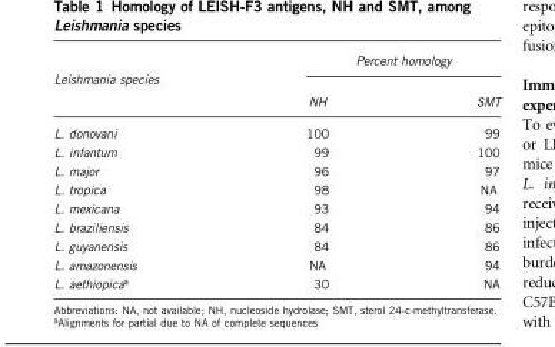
<table><thead><tr><td rowspan="2">Leishmania species</td><td colspan="2">Percent homology</td></tr><tr><td>NH</td><td>SMT</td></tr></thead><tbody><tr><td>L. donovani</td><td>100</td><td>99</td></tr><tr><td>L. infantum</td><td>99</td><td>100</td></tr><tr><td>L. major</td><td>96</td><td>97</td></tr><tr><td>L. tropica</td><td>98</td><td>NA</td></tr><tr><td>L. mexicana</td><td>93</td><td>94</td></tr><tr><td>L. braziliensis</td><td>84</td><td>86</td></tr><tr><td>L. guyanensis</td><td>84</td><td>86</td></tr><tr><td>L. amazonensis</td><td>NA</td><td>94</td></tr><tr><td>L. aethiopica<sup>a</sup></td><td>30</td><td>NA</td></tr></tbody></table>